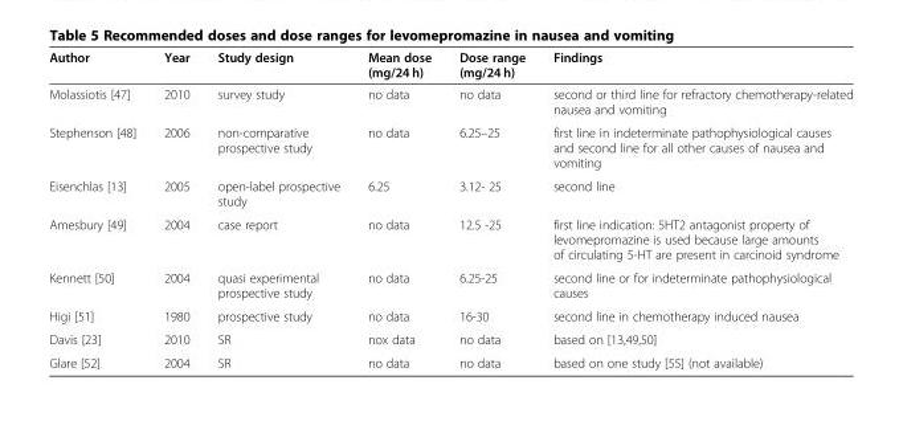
<table><thead><tr><td>Author</td><td>Year</td><td>Study design</td><td>Mean dose (mg/24 h)</td><td>Dose range (mg/24 h)</td><td>Findings</td></tr></thead><tbody><tr><td>Molassiotis [47]</td><td>2010</td><td>survey study</td><td>no data</td><td>no data</td><td>second or third line for refractory chemotherapy-related nausea and vomiting</td></tr><tr><td>Stephenson [48]</td><td>2006</td><td>non-comparative prospective study</td><td>no data</td><td>6.25–25</td><td>first line in indeterminate pathophysiological causes and second line for all other causes of nausea and vomiting</td></tr><tr><td>Eisenchlas [13]</td><td>2005</td><td>open-label prospective study</td><td>6.25</td><td>3.12- 25</td><td>second line</td></tr><tr><td>Amesbury [49]</td><td>2004</td><td>case report</td><td>no data</td><td>12.5 -25</td><td>first line indication: 5HT2 antagonist property of levomepromazine is used because large amounts of circulating 5-HT are present in carcinoid syndrome</td></tr><tr><td>Kennett [50]</td><td>2004</td><td>quasi experimental prospective study</td><td>no data</td><td>6.25-25</td><td>second line or for indeterminate pathophysiological causes</td></tr><tr><td>Higi [51]</td><td>1980</td><td>prospective study</td><td>no data</td><td>16-30</td><td>second line in chemotherapy induced nausea</td></tr><tr><td>Davis [23]</td><td>2010</td><td>SR</td><td>nox data</td><td>no data</td><td>based on [13,49,50]</td></tr><tr><td>Glare [52]</td><td>2004</td><td>SR</td><td>no data</td><td>no data</td><td>based on one study [55] (not available)</td></tr></tbody></table>